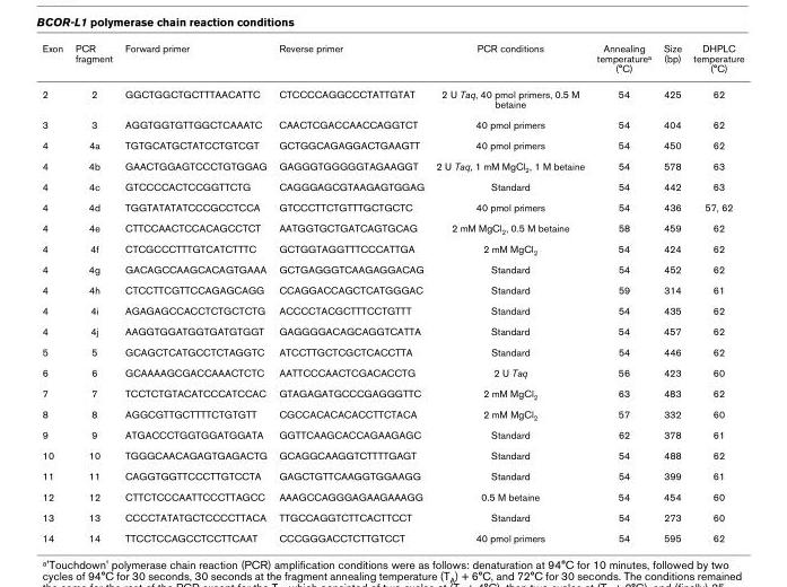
<table><thead><tr><td>Exon</td><td>PCR fragment</td><td>Forward primer</td><td>Reverse primer</td><td>PCR conditions</td><td>Annealing temperature<sup>a</sup> (°C)</td><td>Size (bp)</td><td>DHPLC temperature (°C)</td></tr></thead><tbody><tr><td>2</td><td>2</td><td>GGCTGGCTGCTTTAACATTC</td><td>CTCCCCAGGCCCTATTGTAT</td><td>2 U Taq, 40 pmol primers, 0.5 M betaine</td><td>54</td><td>425</td><td>62</td></tr><tr><td>3</td><td>3</td><td>AGGTGGTGTTGGCTCAAATC</td><td>CAACTCGACCAACCAGGTCT</td><td>40 pmol primers</td><td>54</td><td>404</td><td>62</td></tr><tr><td>4</td><td>4a</td><td>TGTGCATGCTATCCTGTCGT</td><td>GCTGGCAGAGGACTGAAGTT</td><td>40 pmol primers</td><td>54</td><td>450</td><td>62</td></tr><tr><td>4</td><td>4b</td><td>GAACTGGAGTCCCTGTGGAG</td><td>GAGGGTGGGGGTAGAAGGT</td><td>2 U Taq, 1 mM MgCl<sub>2</sub>, 1 M betaine</td><td>54</td><td>578</td><td>63</td></tr><tr><td>4</td><td>4c</td><td>GTCCCCACTCCGGTTCTG</td><td>CAGGGAGCGTAAGAGTGGAG</td><td>Standard</td><td>54</td><td>442</td><td>63</td></tr><tr><td>4</td><td>4d</td><td>TGGTATATATCCCGCCTCCA</td><td>GTCCCTTCTGTTTGCTGCTC</td><td>40 pmol primers</td><td>54</td><td>436</td><td>57, 62</td></tr><tr><td>4</td><td>4e</td><td>CTTCCAACTCCACAGCCTCT</td><td>AATGGTGCTGATCAGTGCAG</td><td>2 mM MgCl<sub>2</sub>, 0.5 M betaine</td><td>58</td><td>459</td><td>62</td></tr><tr><td>4</td><td>4f</td><td>CTCGCCCTTTGTCATCTTTC</td><td>GCTGGTAGGTTTCCCATTGA</td><td>2 mM MgCl<sub>2</sub></td><td>54</td><td>424</td><td>62</td></tr><tr><td>4</td><td>4g</td><td>GACAGCCAAGCACAGTGAAA</td><td>GCTGAGGGTCAAGAGGACAG</td><td>Standard</td><td>54</td><td>452</td><td>62</td></tr><tr><td>4</td><td>4h</td><td>CTCCTTCGTTCCAGAGCAGG</td><td>CCAGGACCAGCTCATGGGAC</td><td>Standard</td><td>59</td><td>314</td><td>61</td></tr><tr><td>4</td><td>4i</td><td>AGAGAGCCACCTCTGCTCTG</td><td>ACCCCTACGCTTTCCTGTTT</td><td>Standard</td><td>54</td><td>435</td><td>62</td></tr><tr><td>4</td><td>4j</td><td>AAGGTGGATGGTGATGTGGT</td><td>GAGGGGACAGCAGGTCATTA</td><td>Standard</td><td>54</td><td>457</td><td>62</td></tr><tr><td>5</td><td>5</td><td>GCAGCTCATGCCTCTAGGTC</td><td>ATCCTTGCTCGCTCACCTTA</td><td>Standard</td><td>54</td><td>446</td><td>62</td></tr><tr><td>6</td><td>6</td><td>GCAAAAGCGACCAAACTCTC</td><td>AATTCCCAACTCGACACCTG</td><td>2 U Taq</td><td>56</td><td>423</td><td>60</td></tr><tr><td>7</td><td>7</td><td>TCCTCTGTACATCCCATCCAC</td><td>GTAGAGATGCCCGAGGGTTC</td><td>2 mM MgCl<sub>2</sub></td><td>63</td><td>483</td><td>62</td></tr><tr><td>8</td><td>8</td><td>AGGCGTTGCTTTTCTGTGTT</td><td>CGCCACACACACCTTCTACA</td><td>2 mM MgCl<sub>2</sub></td><td>57</td><td>332</td><td>60</td></tr><tr><td>9</td><td>9</td><td>ATGACCCTGGTGGATGGATA</td><td>GGTTCAAGCACCAGAAGAGC</td><td>Standard</td><td>62</td><td>378</td><td>61</td></tr><tr><td>10</td><td>10</td><td>TGGGCAACAGAGTGAGACTG</td><td>GCAGGCAAGGTCTTTTGAGT</td><td>Standard</td><td>54</td><td>488</td><td>62</td></tr><tr><td>11</td><td>11</td><td>CAGGTGGTTCCCTTGTCCTA</td><td>GAGCTGTTCAAGGTGGAAGG</td><td>Standard</td><td>54</td><td>399</td><td>61</td></tr><tr><td>12</td><td>12</td><td>CTTCTCCCAATTCCCTTAGCC</td><td>AAAGCCAGGGAGAAGAAAGG</td><td>0.5 M betaine</td><td>54</td><td>454</td><td>60</td></tr><tr><td>13</td><td>13</td><td>CCCCTATATGCTCCCCTTACA</td><td>TTGCCAGGTCTTCACTTCCT</td><td>Standard</td><td>54</td><td>273</td><td>60</td></tr><tr><td>14</td><td>14</td><td>TTCCTCCAGCCTCCTTCAAT</td><td>CCCGGGACCTCTTGTCCT</td><td>40 pmol primers</td><td>54</td><td>595</td><td>62</td></tr></tbody></table>